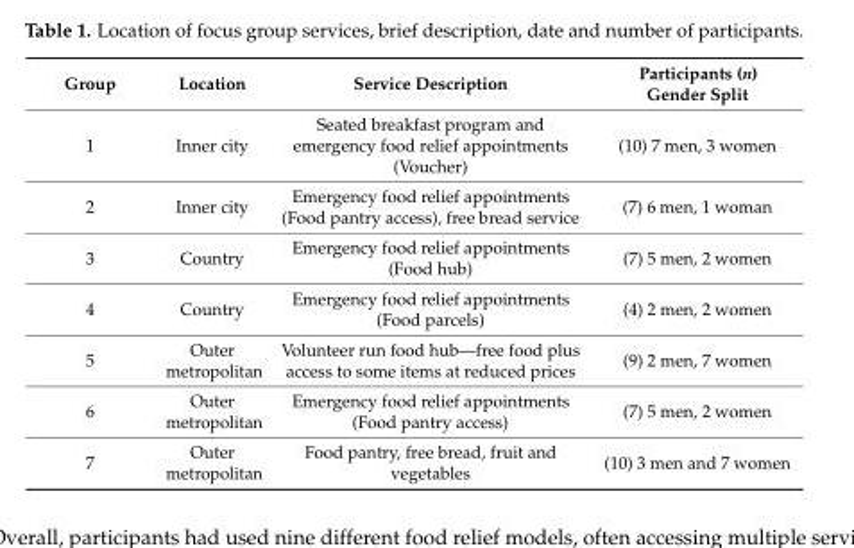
<table><thead><tr><td>Group</td><td>Location</td><td>Service Description</td><td>Participants (n) Gender Split</td></tr></thead><tbody><tr><td>1</td><td>Inner city</td><td>Seated breakfast program and emergency food relief appointments (Voucher)</td><td>(10) 7 men, 3 women</td></tr><tr><td>2</td><td>Inner city</td><td>Emergency food relief appointments (Food pantry access), free bread service</td><td>(7) 6 men, 1 woman</td></tr><tr><td>3</td><td>Country</td><td>Emergency food relief appointments (Food hub)</td><td>(7) 5 men, 2 women</td></tr><tr><td>4</td><td>Country</td><td>Emergency food relief appointments (Food parcels)</td><td>(4) 2 men, 2 women</td></tr><tr><td>5</td><td>Outer metropolitan</td><td>Volunteer run food hub—free food plus access to some items at reduced prices</td><td>(9) 2 men, 7 women</td></tr><tr><td>6</td><td>Outer metropolitan</td><td>Emergency food relief appointments (Food pantry access)</td><td>(7) 5 men, 2 women</td></tr><tr><td>7</td><td>Outer metropolitan</td><td>Food pantry, free bread, fruit and vegetables</td><td>(10) 3 men and 7 women</td></tr></tbody></table>